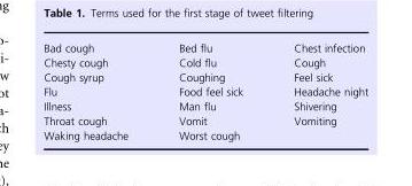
<table><tbody><tr><td>Bad cough</td><td>Bed flu</td><td>Chest infection</td></tr><tr><td>Chesty cough</td><td>Cold flu</td><td>Cough</td></tr><tr><td>Cough syrup</td><td>Coughing</td><td>Feel sick</td></tr><tr><td>Flu</td><td>Food feel sick</td><td>Headache night</td></tr><tr><td>Illness</td><td>Man flu</td><td>Shivering</td></tr><tr><td>Throat cough</td><td>Vomit</td><td>Vomiting</td></tr><tr><td>Waking headache</td><td>Worst cough</td><td></td></tr></tbody></table>